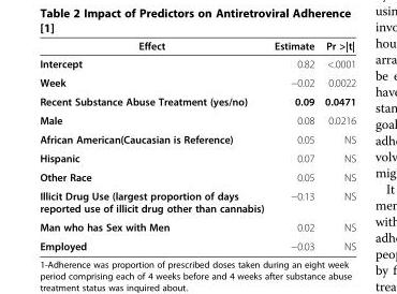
<table><thead><tr><td>Effect</td><td>Estimate</td><td>Pr &gt;|t|</td></tr></thead><tbody><tr><td>Intercept</td><td>0.82</td><td>&lt;.0001</td></tr><tr><td>Week</td><td>−0.02</td><td>0.0022</td></tr><tr><td>Recent Substance Abuse Treatment (yes/no)</td><td>0.09</td><td>0.0471</td></tr><tr><td>Male</td><td>0.08</td><td>0.0216</td></tr><tr><td>African American(Caucasian is Reference)</td><td>0.05</td><td>NS</td></tr><tr><td>Hispanic</td><td>0.07</td><td>NS</td></tr><tr><td>Other Race</td><td>0.05</td><td>NS</td></tr><tr><td>Illicit Drug Use (largest proportion of days reported use of illicit drug other than cannabis)</td><td>−0.13</td><td>NS</td></tr><tr><td>Man who has Sex with Men</td><td>0.02</td><td>NS</td></tr><tr><td>Employed</td><td>−0.03</td><td>NS</td></tr></tbody></table>